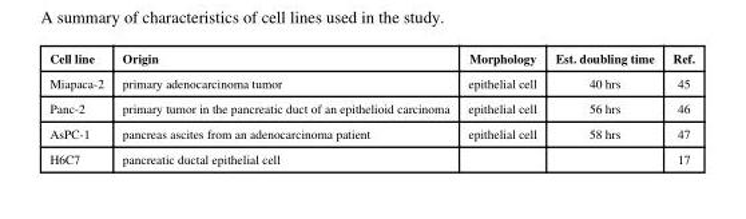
<table><thead><tr><td>Cell line</td><td>Origin</td><td>Morphology</td><td>Est. doubling time</td><td>Ref.</td></tr></thead><tbody><tr><td>Miapaca-2</td><td>primary adenocarcinoma tumor</td><td>epithelial cell</td><td>40 hrs</td><td>45</td></tr><tr><td>Panc-2</td><td>primary tumor in the pancreatic duct of an epithelioid carcinoma</td><td>epithelial cell</td><td>56 hrs</td><td>46</td></tr><tr><td>AsPC-1</td><td>pancreas ascites from an adenocarcinoma patient</td><td>epithelial cell</td><td>58 hrs</td><td>47</td></tr><tr><td>H6C7</td><td>pancreatic ductal epithelial cell</td><td></td><td></td><td>17</td></tr></tbody></table>